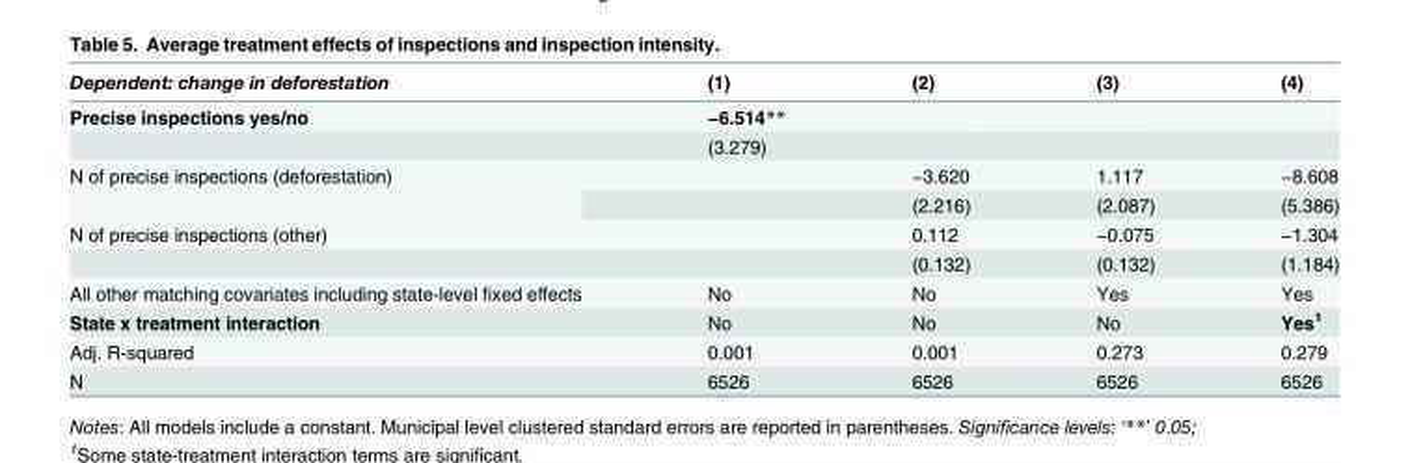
<table><thead><tr><td>Dependent: change in deforestation</td><td>(1)</td><td>(2)</td><td>(3)</td><td>(4)</td></tr></thead><tbody><tr><td rowspan="2">Precise inspections yes/no</td><td>−6.514**</td><td></td><td></td><td></td></tr><tr><td>(3.279)</td><td></td><td></td><td></td></tr><tr><td rowspan="2">N of precise inspections (deforestation)</td><td></td><td>−3.620</td><td>1.117</td><td>−8.608</td></tr><tr><td></td><td>(2.216)</td><td>(2.087)</td><td>(5.386)</td></tr><tr><td rowspan="2">N of precise inspections (other)</td><td></td><td>0.112</td><td>−0.075</td><td>−1.304</td></tr><tr><td></td><td>(0.132)</td><td>(0.132)</td><td>(1.184)</td></tr><tr><td>All other matching covariates including state-level fixed effects</td><td>No</td><td>No</td><td>Yes</td><td>Yes</td></tr><tr><td>State x treatment interaction</td><td>No</td><td>No</td><td>No</td><td>Yes<sup>1</sup></td></tr><tr><td>Adj. R-squared</td><td>0.001</td><td>0.001</td><td>0.273</td><td>0.279</td></tr><tr><td>N</td><td>6526</td><td>6526</td><td>6526</td><td>6526</td></tr></tbody></table>